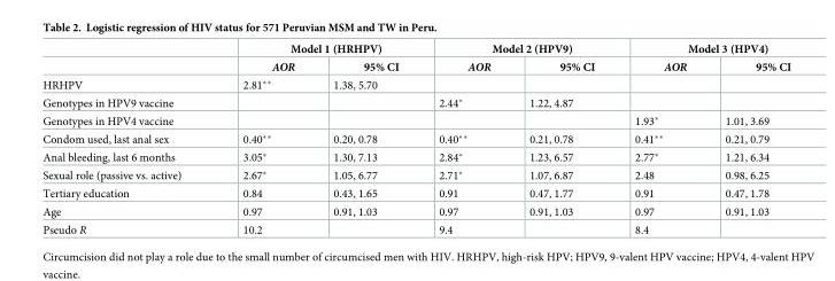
<table><thead><tr><td rowspan="2"></td><td colspan="2">Model 1 (HRHPV)</td><td colspan="2">Model 2 (HPV9)</td><td colspan="2">Model 3 (HPV4)</td></tr><tr><td>AOR</td><td>95% CI</td><td>AOR</td><td>95% CI</td><td>AOR</td><td>95% CI</td></tr></thead><tbody><tr><td>HRHPV</td><td>2.81**</td><td>1.38, 5.70</td><td></td><td></td><td></td><td></td></tr><tr><td>Genotypes in HPV9 vaccine</td><td></td><td></td><td>2.44*</td><td>1.22, 4.87</td><td></td><td></td></tr><tr><td>Genotypes in HPV4 vaccine</td><td></td><td></td><td></td><td></td><td>1.93*</td><td>1.01, 3.69</td></tr><tr><td>Condom used, last anal sex</td><td>0.40**</td><td>0.20, 0.78</td><td>0.40**</td><td>0.21, 0.78</td><td>0.41**</td><td>0.21, 0.79</td></tr><tr><td>Anal bleeding, last 6 months</td><td>3.05*</td><td>1.30, 7.13</td><td>2.84*</td><td>1.23, 6.57</td><td>2.77*</td><td>1.21, 6.34</td></tr><tr><td>Sexual role (passive vs. active)</td><td>2.67*</td><td>1.05, 6.77</td><td>2.71*</td><td>1.07, 6.87</td><td>2.48</td><td>0.98, 6.25</td></tr><tr><td>Tertiary education</td><td>0.84</td><td>0.43, 1.65</td><td>0.91</td><td>0.47, 1.77</td><td>0.91</td><td>0.47, 1.78</td></tr><tr><td>Age</td><td>0.97</td><td>0.91, 1.03</td><td>0.97</td><td>0.91, 1.03</td><td>0.97</td><td>0.91, 1.03</td></tr><tr><td>Pseudo R</td><td>10.2</td><td></td><td>9.4</td><td></td><td>8.4</td><td></td></tr></tbody></table>